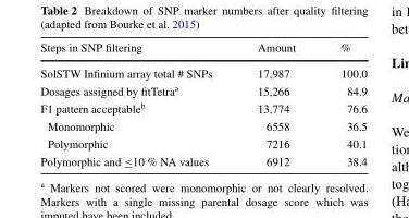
<table><thead><tr><td>Steps in SNP filtering</td><td>Amount</td><td>%</td></tr></thead><tbody><tr><td>SolSTW Infinium array total # SNPs</td><td>17,987</td><td>100.0</td></tr><tr><td>Dosages assigned by fitTetra<sup>a</sup></td><td>15,266</td><td>84.9</td></tr><tr><td>F1 pattern acceptable<sup>b</sup></td><td>13,774</td><td>76.6</td></tr><tr><td>Monomorphic</td><td>6558</td><td>36.5</td></tr><tr><td>Polymorphic</td><td>7216</td><td>40.1</td></tr><tr><td>Polymorphic and ≤10 % NA values</td><td>6912</td><td>38.4</td></tr></tbody></table>